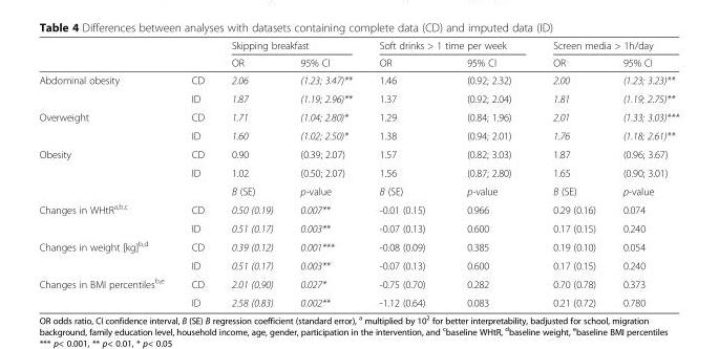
<table><thead><tr><td rowspan="2"></td><td rowspan="2"></td><td colspan="2">Skipping breakfast</td><td colspan="2">Soft drinks &gt; 1 time per week</td><td colspan="2">Screen media &gt; 1h/day</td></tr><tr><td>OR</td><td>95% CI</td><td>OR</td><td>95% CI</td><td>OR</td><td>95% CI</td></tr></thead><tbody><tr><td rowspan="2">Abdominal obesity</td><td>CD</td><td>2.06</td><td>(1.23; 3.47)**</td><td>1.46</td><td>(0.92; 2.32)</td><td>2.00</td><td>(1.23; 3.23)**</td></tr><tr><td>ID</td><td>1.87</td><td>(1.19; 2.96)**</td><td>1.37</td><td>(0.92; 2.04)</td><td>1.81</td><td>(1.19; 2.75)**</td></tr><tr><td rowspan="2">Overweight</td><td>CD</td><td>1.71</td><td>(1.04; 2.80)*</td><td>1.29</td><td>(0.84; 1.96)</td><td>2.01</td><td>(1.33; 3.03)***</td></tr><tr><td>ID</td><td>1.60</td><td>(1.02; 2.50)*</td><td>1.38</td><td>(0.94; 2.01)</td><td>1.76</td><td>(1.18; 2.61)**</td></tr><tr><td rowspan="3">Obesity</td><td>CD</td><td>0.90</td><td>(0.39; 2.07)</td><td>1.57</td><td>(0.82; 3.03)</td><td>1.87</td><td>(0.96; 3.67)</td></tr><tr><td>ID</td><td>1.02</td><td>(0.50; 2.07)</td><td>1.56</td><td>(0.87; 2.80)</td><td>1.65</td><td>(0.90; 3.01)</td></tr><tr><td></td><td>B (SE)</td><td>p-value</td><td>B (SE)</td><td>p-value</td><td>B (SE)</td><td>p-value</td></tr><tr><td rowspan="2">Changes in WHtR<sup>a,b,c</sup></td><td>CD</td><td>0.50 (0.19)</td><td>0.007**</td><td>-0.01 (0.15)</td><td>0.966</td><td>0.29 (0.16)</td><td>0.074</td></tr><tr><td>ID</td><td>0.51 (0.17)</td><td>0.003**</td><td>-0.07 (0.13)</td><td>0.600</td><td>0.17 (0.15)</td><td>0.240</td></tr><tr><td rowspan="2">Changes in weight [kg]<sup>b,d</sup></td><td>CD</td><td>0.39 (0.12)</td><td>0.001***</td><td>-0.08 (0.09)</td><td>0.385</td><td>0.19 (0.10)</td><td>0.054</td></tr><tr><td>ID</td><td>0.51 (0.17)</td><td>0.003**</td><td>-0.07 (0.13)</td><td>0.600</td><td>0.17 (0.15)</td><td>0.240</td></tr><tr><td rowspan="2">Changes in BMI percentiles<sup>b,e</sup></td><td>CD</td><td>2.01 (0.90)</td><td>0.027*</td><td>-0.75 (0.70)</td><td>0.282</td><td>0.70 (0.78)</td><td>0.373</td></tr><tr><td>ID</td><td>2.58 (0.83)</td><td>0.002**</td><td>-1.12 (0.64)</td><td>0.083</td><td>0.21 (0.72)</td><td>0.780</td></tr></tbody></table>